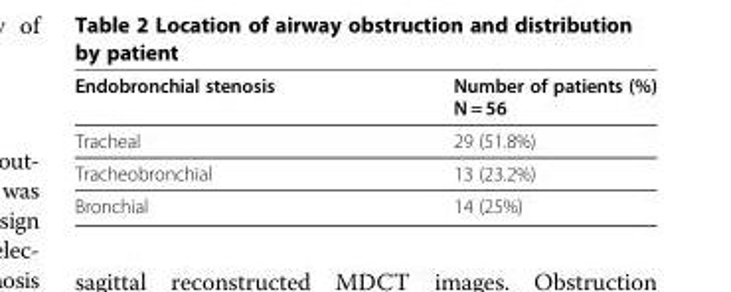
<table><thead><tr><td>Endobronchial stenosis</td><td>Number of patients (%) N = 56</td></tr></thead><tbody><tr><td>Tracheal</td><td>29 (51.8%)</td></tr><tr><td>Tracheobronchial</td><td>13 (23.2%)</td></tr><tr><td>Bronchial</td><td>14 (25%)</td></tr></tbody></table>